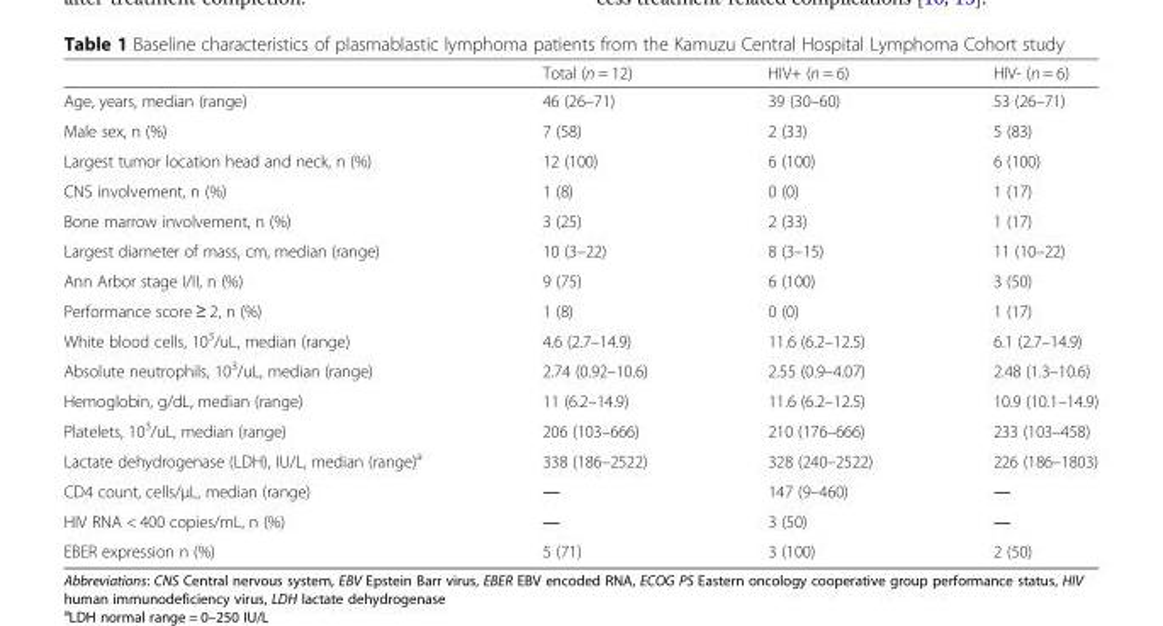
<table><thead><tr><td></td><td>Total (n = 12)</td><td>HIV+ (n = 6)</td><td>HIV- (n = 6)</td></tr></thead><tbody><tr><td>Age, years, median (range)</td><td>46 (26–71)</td><td>39 (30–60)</td><td>53 (26–71)</td></tr><tr><td>Male sex, n (%)</td><td>7 (58)</td><td>2 (33)</td><td>5 (83)</td></tr><tr><td>Largest tumor location head and neck, n (%)</td><td>12 (100)</td><td>6 (100)</td><td>6 (100)</td></tr><tr><td>CNS involvement, n (%)</td><td>1 (8)</td><td>0 (0)</td><td>1 (17)</td></tr><tr><td>Bone marrow involvement, n (%)</td><td>3 (25)</td><td>2 (33)</td><td>1 (17)</td></tr><tr><td>Largest diameter of mass, cm, median (range)</td><td>10 (3–22)</td><td>8 (3–15)</td><td>11 (10–22)</td></tr><tr><td>Ann Arbor stage I/II, n (%)</td><td>9 (75)</td><td>6 (100)</td><td>3 (50)</td></tr><tr><td>Performance score ≥ 2, n (%)</td><td>1 (8)</td><td>0 (0)</td><td>1 (17)</td></tr><tr><td>White blood cells, 10<sup>3</sup>/uL, median (range)</td><td>4.6 (2.7–14.9)</td><td>11.6 (6.2–12.5)</td><td>6.1 (2.7–14.9)</td></tr><tr><td>Absolute neutrophils, 10<sup>3</sup>/uL, median (range)</td><td>2.74 (0.92–10.6)</td><td>2.55 (0.9–4.07)</td><td>2.48 (1.3–10.6)</td></tr><tr><td>Hemoglobin, g/dL, median (range)</td><td>11 (6.2–14.9)</td><td>11.6 (6.2–12.5)</td><td>10.9 (10.1–14.9)</td></tr><tr><td>Platelets, 10<sup>3</sup>/uL, median (range)</td><td>206 (103–666)</td><td>210 (176–666)</td><td>233 (103–458)</td></tr><tr><td>Lactate dehydrogenase (LDH), IU/L, median (range)<sup>a</sup></td><td>338 (186–2522)</td><td>328 (240–2522)</td><td>226 (186–1803)</td></tr><tr><td>CD4 count, cells/μL, median (range)</td><td>―</td><td>147 (9–460)</td><td>―</td></tr><tr><td>HIV RNA &lt; 400 copies/mL, n (%)</td><td>―</td><td>3 (50)</td><td>―</td></tr><tr><td>EBER expression n (%)</td><td>5 (71)</td><td>3 (100)</td><td>2 (50)</td></tr></tbody></table>